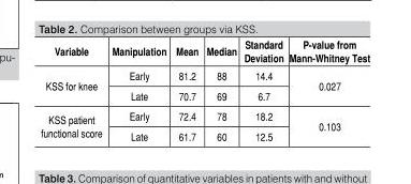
<table><thead><tr><td>Variable</td><td>Manipulation</td><td>Mean</td><td>Median</td><td>Standard Deviation</td><td>P-value from Mann-Whitney Test</td></tr></thead><tbody><tr><td rowspan="2">KSS for knee</td><td>Early</td><td>81.2</td><td>88</td><td>14.4</td><td rowspan="2">0.027</td></tr><tr><td>Late</td><td>70.7</td><td>69</td><td>6.7</td></tr><tr><td rowspan="2">KSS patient functional score</td><td>Early</td><td>72.4</td><td>78</td><td>18.2</td><td rowspan="2">0.103</td></tr><tr><td>Late</td><td>61.7</td><td>60</td><td>12.5</td></tr></tbody></table>